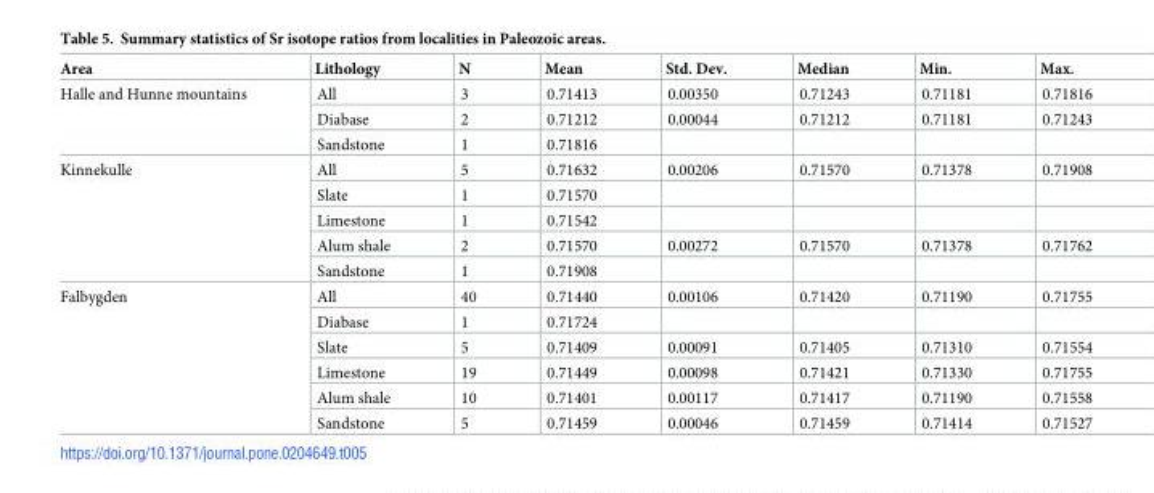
<table><thead><tr><td>Area</td><td>Lithology</td><td>N</td><td>Mean</td><td>Std. Dev.</td><td>Median</td><td>Min.</td><td>Max.</td></tr></thead><tbody><tr><td rowspan="3">Halle and Hunne mountains</td><td>All</td><td>3</td><td>0.71413</td><td>0.00350</td><td>0.71243</td><td>0.71181</td><td>0.71816</td></tr><tr><td>Diabase</td><td>2</td><td>0.71212</td><td>0.00044</td><td>0.71212</td><td>0.71181</td><td>0.71243</td></tr><tr><td>Sandstone</td><td>1</td><td>0.71816</td><td></td><td></td><td></td><td></td></tr><tr><td rowspan="5">Kinnekulle</td><td>All</td><td>5</td><td>0.71632</td><td>0.00206</td><td>0.71570</td><td>0.71378</td><td>0.71908</td></tr><tr><td>Slate</td><td>1</td><td>0.71570</td><td></td><td></td><td></td><td></td></tr><tr><td>Limestone</td><td>1</td><td>0.71542</td><td></td><td></td><td></td><td></td></tr><tr><td>Alum shale</td><td>2</td><td>0.71570</td><td>0.00272</td><td>0.71570</td><td>0.71378</td><td>0.71762</td></tr><tr><td>Sandstone</td><td>1</td><td>0.71908</td><td></td><td></td><td></td><td></td></tr><tr><td rowspan="6">Falbygden</td><td>All</td><td>40</td><td>0.71440</td><td>0.00106</td><td>0.71420</td><td>0.71190</td><td>0.71755</td></tr><tr><td>Diabase</td><td>1</td><td>0.71724</td><td></td><td></td><td></td><td></td></tr><tr><td>Slate</td><td>5</td><td>0.71409</td><td>0.00091</td><td>0.71405</td><td>0.71310</td><td>0.71554</td></tr><tr><td>Limestone</td><td>19</td><td>0.71449</td><td>0.00098</td><td>0.71421</td><td>0.71330</td><td>0.71755</td></tr><tr><td>Alum shale</td><td>10</td><td>0.71401</td><td>0.00117</td><td>0.71417</td><td>0.71190</td><td>0.71558</td></tr><tr><td>Sandstone</td><td>5</td><td>0.71459</td><td>0.00046</td><td>0.71459</td><td>0.71414</td><td>0.71527</td></tr></tbody></table>